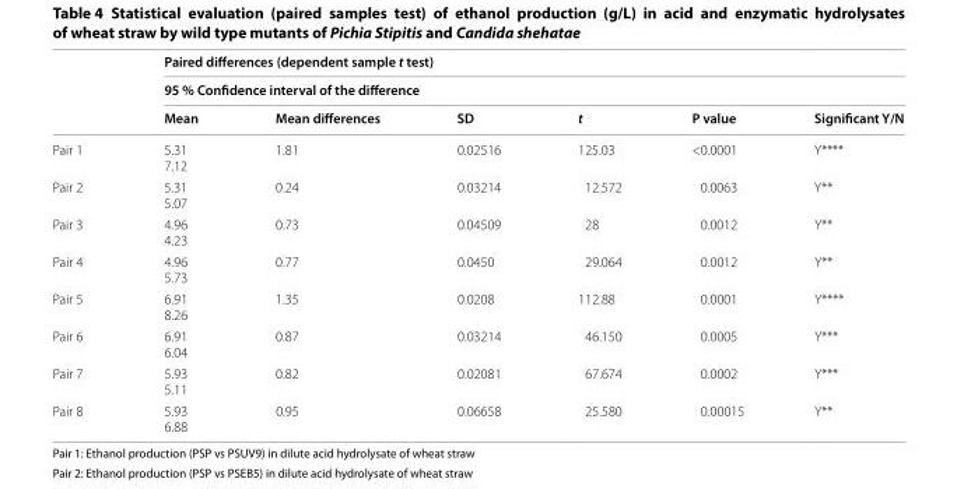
<table><thead><tr><td rowspan="3"></td><td rowspan="2" colspan="6">Paired differences (dependent sample t test) 95 % Confidence interval of the difference</td></tr><tr></tr><tr><td>Mean</td><td>Mean differences</td><td>SD</td><td>t</td><td>P value</td><td>Significant Y/N</td></tr></thead><tbody><tr><td>Pair 1</td><td>5.31 7.12</td><td>1.81</td><td>0.02516</td><td>125.03</td><td>&lt;0.0001</td><td>Y****</td></tr><tr><td>Pair 2</td><td>5.31 5.07</td><td>0.24</td><td>0.03214</td><td>12.572</td><td>0.0063</td><td>Y**</td></tr><tr><td>Pair 3</td><td>4.96 4.23</td><td>0.73</td><td>0.04509</td><td>28</td><td>0.0012</td><td>Y**</td></tr><tr><td>Pair 4</td><td>4.96 5.73</td><td>0.77</td><td>0.0450</td><td>29.064</td><td>0.0012</td><td>Y**</td></tr><tr><td>Pair 5</td><td>6.91 8.26</td><td>1.35</td><td>0.0208</td><td>112.88</td><td>0.0001</td><td>Y****</td></tr><tr><td>Pair 6</td><td>6.91 6.04</td><td>0.87</td><td>0.03214</td><td>46.150</td><td>0.0005</td><td>Y***</td></tr><tr><td>Pair 7</td><td>5.93 5.11</td><td>0.82</td><td>0.02081</td><td>67.674</td><td>0.0002</td><td>Y***</td></tr><tr><td>Pair 8</td><td>5.93 6.88</td><td>0.95</td><td>0.06658</td><td>25.580</td><td>0.00015</td><td>Y**</td></tr></tbody></table>